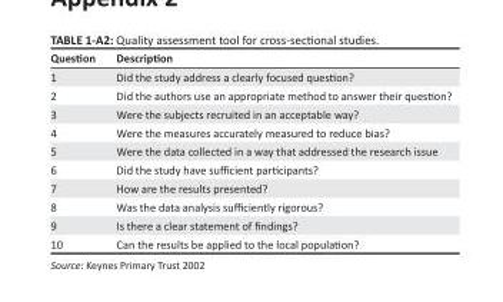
<table><thead><tr><td>Question</td><td>Description</td></tr></thead><tbody><tr><td>1</td><td>Did the study address a clearly focused question?</td></tr><tr><td>2</td><td>Did the authors use an appropriate method to answer their question?</td></tr><tr><td>3</td><td>Were the subjects recruited in an acceptable way?</td></tr><tr><td>4</td><td>Were the measures accurately measured to reduce bias?</td></tr><tr><td>5</td><td>Were the data collected in a way that addressed the research issue</td></tr><tr><td>6</td><td>Did the study have sufficient participants?</td></tr><tr><td>7</td><td>How are the results presented?</td></tr><tr><td>8</td><td>Was the data analysis sufficiently rigorous?</td></tr><tr><td>9</td><td>Is there a clear statement of findings?</td></tr><tr><td>10</td><td>Can the results be applied to the local population?</td></tr></tbody></table>